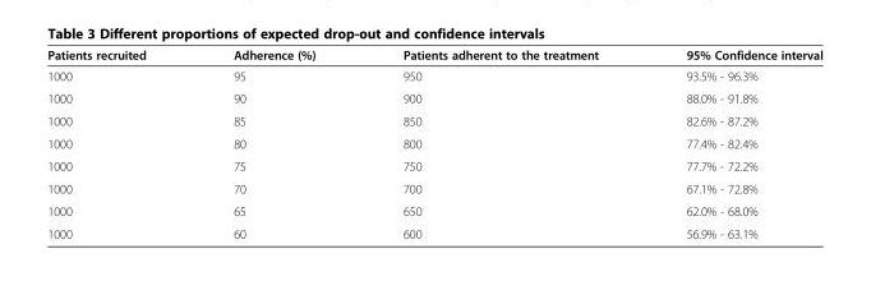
<table><thead><tr><td>Patients recruited</td><td>Adherence (%)</td><td>Patients adherent to the treatment</td><td>95% Confidence interval</td></tr></thead><tbody><tr><td>1000</td><td>95</td><td>950</td><td>93.5% - 96.3%</td></tr><tr><td>1000</td><td>90</td><td>900</td><td>88.0% - 91.8%</td></tr><tr><td>1000</td><td>85</td><td>850</td><td>82.6% - 87.2%</td></tr><tr><td>1000</td><td>80</td><td>800</td><td>77.4% - 82.4%</td></tr><tr><td>1000</td><td>75</td><td>750</td><td>77.7% - 72.2%</td></tr><tr><td>1000</td><td>70</td><td>700</td><td>67.1% - 72.8%</td></tr><tr><td>1000</td><td>65</td><td>650</td><td>62.0% - 68.0%</td></tr><tr><td>1000</td><td>60</td><td>600</td><td>56.9% - 63.1%</td></tr></tbody></table>